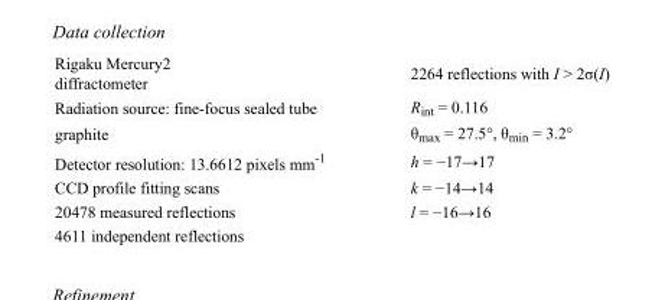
<table><tbody><tr><td>Rigaku Mercury2 diffractometer</td><td>2264 reflections with I &gt; 2σ(I)</td></tr><tr><td>Radiation source: fine-focus sealed tube</td><td>R<sub>int</sub> = 0.116</td></tr><tr><td>graphite</td><td>θ<sub>max</sub> = 27.5°, θ<sub>min</sub> = 3.2°</td></tr><tr><td>Detector resolution: 13.6612 pixels mm<sup>-1</sup></td><td>h = −17→17</td></tr><tr><td>CCD profile fitting scans</td><td>k = −14→14</td></tr><tr><td>20478 measured reflections</td><td>l = −16→16</td></tr><tr><td>4611 independent reflections</td><td></td></tr></tbody></table>